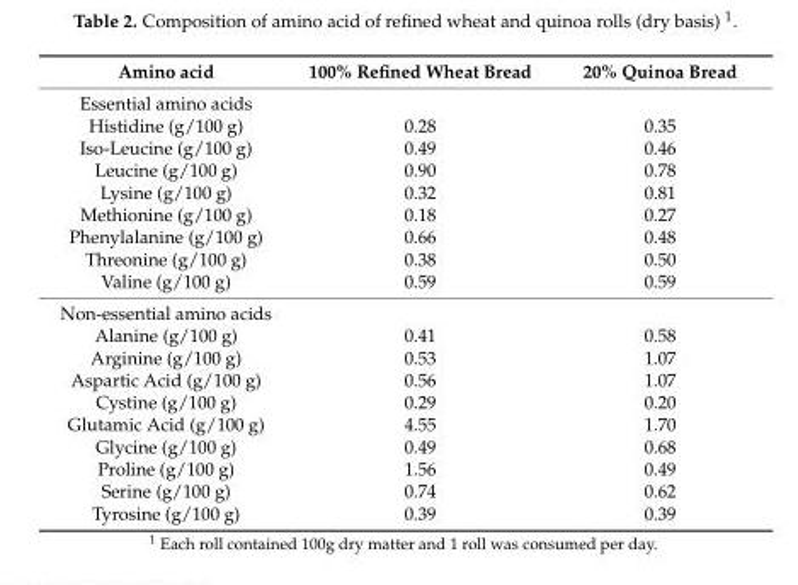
<table><thead><tr><td>Amino acid</td><td>100% Refined Wheat Bread</td><td>20% Quinoa Bread</td></tr></thead><tbody><tr><td colspan="3">Essential amino acids</td></tr><tr><td>Histidine (g/100 g)</td><td>0.28</td><td>0.35</td></tr><tr><td>Iso-Leucine (g/100 g)</td><td>0.49</td><td>0.46</td></tr><tr><td>Leucine (g/100 g)</td><td>0.90</td><td>0.78</td></tr><tr><td>Lysine (g/100 g)</td><td>0.32</td><td>0.81</td></tr><tr><td>Methionine (g/100 g)</td><td>0.18</td><td>0.27</td></tr><tr><td>Phenylalanine (g/100 g)</td><td>0.66</td><td>0.48</td></tr><tr><td>Threonine (g/100 g)</td><td>0.38</td><td>0.50</td></tr><tr><td>Valine (g/100 g)</td><td>0.59</td><td>0.59</td></tr><tr><td colspan="3">Non-essential amino acids</td></tr><tr><td>Alanine (g/100 g)</td><td>0.41</td><td>0.58</td></tr><tr><td>Arginine (g/100 g)</td><td>0.53</td><td>1.07</td></tr><tr><td>Aspartic Acid (g/100 g)</td><td>0.56</td><td>1.07</td></tr><tr><td>Cystine (g/100 g)</td><td>0.29</td><td>0.20</td></tr><tr><td>Glutamic Acid (g/100 g)</td><td>4.55</td><td>1.70</td></tr><tr><td>Glycine (g/100 g)</td><td>0.49</td><td>0.68</td></tr><tr><td>Proline (g/100 g)</td><td>1.56</td><td>0.49</td></tr><tr><td>Serine (g/100 g)</td><td>0.74</td><td>0.62</td></tr><tr><td>Tyrosine (g/100 g)</td><td>0.39</td><td>0.39</td></tr></tbody></table>